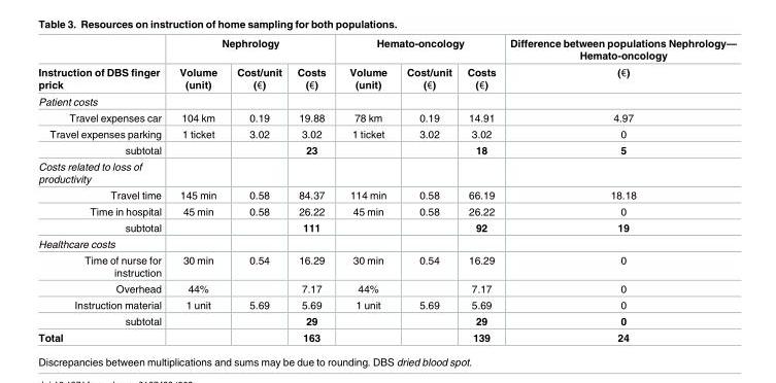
<table><thead><tr><td rowspan="2">Instruction of DBS finger prick</td><td colspan="3">Nephrology</td><td colspan="3">Hemato-oncology</td><td rowspan="2">Difference between populations Nephrology— Hemato-oncology (€)</td></tr><tr><td>Volume (unit)</td><td>Cost/unit (€)</td><td>Costs (€)</td><td>Volume (unit)</td><td>Cost/unit (€)</td><td>Costs (€)</td></tr></thead><tbody><tr><td colspan="8">Patient costs</td></tr><tr><td>Travel expenses car</td><td>104 km</td><td>0.19</td><td>19.88</td><td>78 km</td><td>0.19</td><td>14.91</td><td>4.97</td></tr><tr><td>Travel expenses parking</td><td>1 ticket</td><td>3.02</td><td>3.02</td><td>1 ticket</td><td>3.02</td><td>3.02</td><td>0</td></tr><tr><td>subtotal</td><td></td><td></td><td>23</td><td></td><td></td><td>18</td><td>5</td></tr><tr><td colspan="8">Costs related to loss of productivity</td></tr><tr><td>Travel time</td><td>145 min</td><td>0.58</td><td>84.37</td><td>114 min</td><td>0.58</td><td>66.19</td><td>18.18</td></tr><tr><td>Time in hospital</td><td>45 min</td><td>0.58</td><td>26.22</td><td>45 min</td><td>0.58</td><td>26.22</td><td>0</td></tr><tr><td>subtotal</td><td></td><td></td><td>111</td><td></td><td></td><td>92</td><td>19</td></tr><tr><td colspan="8">Healthcare costs</td></tr><tr><td>Time of nurse for instruction</td><td>30 min</td><td>0.54</td><td>16.29</td><td>30 min</td><td>0.54</td><td>16.29</td><td>0</td></tr><tr><td>Overhead</td><td>44%</td><td></td><td>7.17</td><td>44%</td><td></td><td>7.17</td><td>0</td></tr><tr><td>Instruction material</td><td>1 unit</td><td>5.69</td><td>5.69</td><td>1 unit</td><td>5.69</td><td>5.69</td><td>0</td></tr><tr><td>subtotal</td><td></td><td></td><td>29</td><td></td><td></td><td>29</td><td>0</td></tr><tr><td>Total</td><td></td><td></td><td>163</td><td></td><td></td><td>139</td><td>24</td></tr></tbody></table>